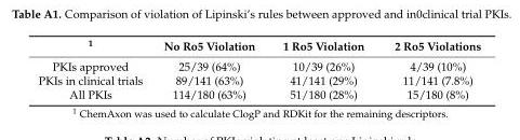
<table><thead><tr><td><sup>1</sup></td><td>No Ro5 Violation</td><td>1 Ro5 Violation</td><td>2 Ro5 Violations</td></tr></thead><tbody><tr><td>PKIs approved</td><td>25/39 (64%)</td><td>10/39 (26%)</td><td>4/39 (10%)</td></tr><tr><td>PKIs in clinical trials</td><td>89/141 (63%)</td><td>41/141 (29%)</td><td>11/141 (7.8%)</td></tr><tr><td>All PKIs</td><td>114/180 (63%)</td><td>51/180 (28%)</td><td>15/180 (8%)</td></tr></tbody></table>